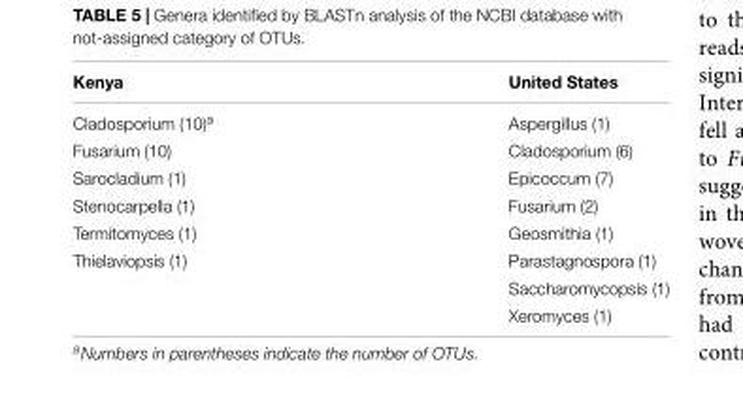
<table><thead><tr><td>Kenya</td><td>United States</td></tr></thead><tbody><tr><td>Cladosporium (10)<sup>a</sup></td><td>Aspergillus (1)</td></tr><tr><td>Fusarium (10)</td><td>Cladosporium (6)</td></tr><tr><td>Sarocladium (1)</td><td>Epicoccum (7)</td></tr><tr><td>Stenocarpella (1)</td><td>Fusarium (2)</td></tr><tr><td>Termitomyces (1)</td><td>Geosmithia (1)</td></tr><tr><td rowspan="3">Thielaviopsis (1)</td><td>Parastagnospora (1)</td></tr><tr><td>Saccharomycopsis (1)</td></tr><tr><td>Xeromyces (1)</td></tr></tbody></table>